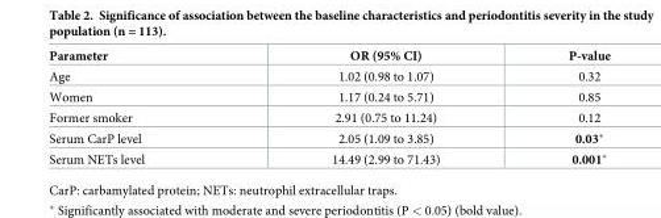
<table><thead><tr><td>Parameter</td><td>OR (95% CI)</td><td>P-value</td></tr></thead><tbody><tr><td>Age</td><td>1.02 (0.98 to 1.07)</td><td>0.32</td></tr><tr><td>Women</td><td>1.17 (0.24 to 5.71)</td><td>0.85</td></tr><tr><td>Former smoker</td><td>2.91 (0.75 to 11.24)</td><td>0.12</td></tr><tr><td>Serum CarP level</td><td>2.05 (1.09 to 3.85)</td><td>0.03*</td></tr><tr><td>Serum NETs level</td><td>14.49 (2.99 to 71.43)</td><td>0.001*</td></tr></tbody></table>